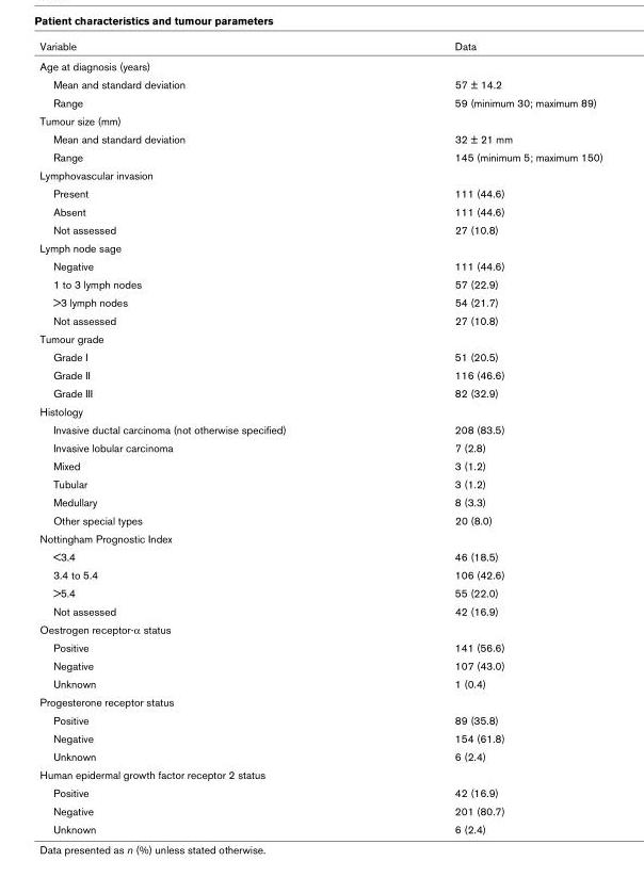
<table><thead><tr><td>Variable</td><td>Data</td></tr></thead><tbody><tr><td colspan="2">Age at diagnosis (years)</td></tr><tr><td>Mean and standard deviation</td><td>57 ± 14.2</td></tr><tr><td>Range</td><td>59 (minimum 30; maximum 89)</td></tr><tr><td colspan="2">Tumour size (mm)</td></tr><tr><td>Mean and standard deviation</td><td>32 ± 21 mm</td></tr><tr><td>Range</td><td>145 (minimum 5; maximum 150)</td></tr><tr><td colspan="2">Lymphovascular invasion</td></tr><tr><td>Present</td><td>111 (44.6)</td></tr><tr><td>Absent</td><td>111 (44.6)</td></tr><tr><td>Not assessed</td><td>27 (10.8)</td></tr><tr><td colspan="2">Lymph node sage</td></tr><tr><td>Negative</td><td>111 (44.6)</td></tr><tr><td>1 to 3 lymph nodes</td><td>57 (22.9)</td></tr><tr><td>&gt;3 lymph nodes</td><td>54 (21.7)</td></tr><tr><td>Not assessed</td><td>27 (10.8)</td></tr><tr><td colspan="2">Tumour grade</td></tr><tr><td>Grade I</td><td>51 (20.5)</td></tr><tr><td>Grade II</td><td>116 (46.6)</td></tr><tr><td>Grade III</td><td>82 (32.9)</td></tr><tr><td colspan="2">Histology</td></tr><tr><td>Invasive ductal carcinoma (not otherwise specified)</td><td>208 (83.5)</td></tr><tr><td>Invasive lobular carcinoma</td><td>7 (2.8)</td></tr><tr><td>Mixed</td><td>3 (1.2)</td></tr><tr><td>Tubular</td><td>3 (1.2)</td></tr><tr><td>Medullary</td><td>8 (3.3)</td></tr><tr><td>Other special types</td><td>20 (8.0)</td></tr><tr><td colspan="2">Nottingham Prognostic Index</td></tr><tr><td>&lt;3.4</td><td>46 (18.5)</td></tr><tr><td>3.4 to 5.4</td><td>106 (42.6)</td></tr><tr><td>&gt;5.4</td><td>55 (22.0)</td></tr><tr><td>Not assessed</td><td>42 (16.9)</td></tr><tr><td colspan="2">Oestrogen receptor-α status</td></tr><tr><td>Positive</td><td>141 (56.6)</td></tr><tr><td>Negative</td><td>107 (43.0)</td></tr><tr><td>Unknown</td><td>1 (0.4)</td></tr><tr><td colspan="2">Progesterone receptor status</td></tr><tr><td>Positive</td><td>89 (35.8)</td></tr><tr><td>Negative</td><td>154 (61.8)</td></tr><tr><td>Unknown</td><td>6 (2.4)</td></tr><tr><td colspan="2">Human epidermal growth factor receptor 2 status</td></tr><tr><td>Positive</td><td>42 (16.9)</td></tr><tr><td>Negative</td><td>201 (80.7)</td></tr><tr><td>Unknown</td><td>6 (2.4)</td></tr></tbody></table>